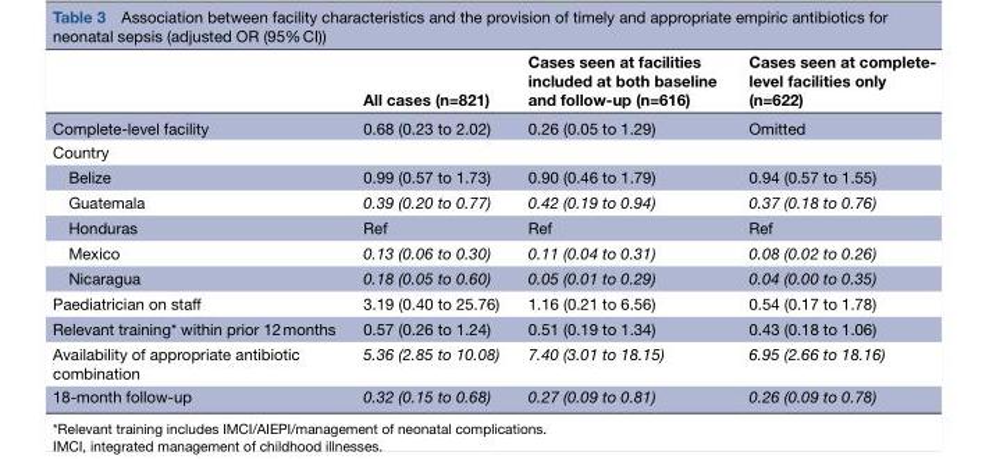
<table><thead><tr><td></td><td>All cases (n=821)</td><td>Cases seen at facilities included at both baseline and follow-up (n=616)</td><td>Cases seen at complete- level facilities only (n=622)</td></tr></thead><tbody><tr><td>Complete-level facility</td><td>0.68 (0.23 to 2.02)</td><td>0.26 (0.05 to 1.29)</td><td>Omitted</td></tr><tr><td colspan="4">Country</td></tr><tr><td>Belize</td><td>0.99 (0.57 to 1.73)</td><td>0.90 (0.46 to 1.79)</td><td>0.94 (0.57 to 1.55)</td></tr><tr><td>Guatemala</td><td>0.39 (0.20 to 0.77)</td><td>0.42 (0.19 to 0.94)</td><td>0.37 (0.18 to 0.76)</td></tr><tr><td>Honduras</td><td>Ref</td><td>Ref</td><td>Ref</td></tr><tr><td>Mexico</td><td>0.13 (0.06 to 0.30)</td><td>0.11 (0.04 to 0.31)</td><td>0.08 (0.02 to 0.26)</td></tr><tr><td>Nicaragua</td><td>0.18 (0.05 to 0.60)</td><td>0.05 (0.01 to 0.29)</td><td>0.04 (0.00 to 0.35)</td></tr><tr><td>Paediatrician on staff</td><td>3.19 (0.40 to 25.76)</td><td>1.16 (0.21 to 6.56)</td><td>0.54 (0.17 to 1.78)</td></tr><tr><td>Relevant training* within prior 12 months</td><td>0.57 (0.26 to 1.24)</td><td>0.51 (0.19 to 1.34)</td><td>0.43 (0.18 to 1.06)</td></tr><tr><td>Availability of appropriate antibiotic combination</td><td>5.36 (2.85 to 10.08)</td><td>7.40 (3.01 to 18.15)</td><td>6.95 (2.66 to 18.16)</td></tr><tr><td>18-month follow-up</td><td>0.32 (0.15 to 0.68)</td><td>0.27 (0.09 to 0.81)</td><td>0.26 (0.09 to 0.78)</td></tr></tbody></table>